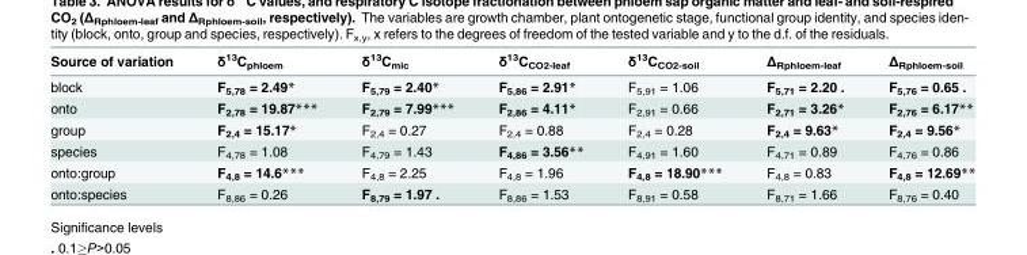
<table><thead><tr><td>Source of variation</td><td>δ<sup>13</sup>C<sub>phloem</sub></td><td>δ<sup>13</sup>C<sub>mic</sub></td><td>δ<sup>13</sup>C<sub>CO2-leaf</sub></td><td>δ<sup>13</sup>C<sub>CO2-soil</sub></td><td>Δ<sub>Rphloem-leaf</sub></td><td>Δ<sub>Rphloem-soil</sub></td></tr></thead><tbody><tr><td>block</td><td>F<sub>5,78</sub> = 2.49*</td><td>F<sub>5,79</sub> = 2.40*</td><td>F<sub>5,86</sub> = 2.91*</td><td>F<sub>5,91</sub> = 1.06</td><td>F<sub>5,71</sub> = 2.20 .</td><td>F<sub>5,76</sub> = 0.65 .</td></tr><tr><td>onto</td><td>F<sub>2,78</sub> = 19.87***</td><td>F<sub>2,79</sub> = 7.99***</td><td>F<sub>2,86</sub> = 4.11*</td><td>F<sub>2,91</sub> = 0.66</td><td>F<sub>2,71</sub> = 3.26*</td><td>F<sub>2,76</sub> = 6.17**</td></tr><tr><td>group</td><td>F<sub>2,4</sub> = 15.17*</td><td>F<sub>2,4</sub> = 0.27</td><td>F<sub>2,4</sub> = 0.88</td><td>F<sub>2,4</sub> = 0.28</td><td>F<sub>2,4</sub> = 9.63*</td><td>F<sub>2,4</sub> = 9.56*</td></tr><tr><td>species</td><td>F<sub>4,78</sub> = 1.08</td><td>F<sub>4,79</sub> = 1.43</td><td>F<sub>4,86</sub> = 3.56**</td><td>F<sub>4,91</sub> = 1.60</td><td>F<sub>4,71</sub> = 0.89</td><td>F<sub>4,76</sub> = 0.86</td></tr><tr><td>onto:group</td><td>F<sub>4,8</sub> = 14.6***</td><td>F<sub>4,8</sub> = 2.25</td><td>F<sub>4,8</sub> = 1.96</td><td>F<sub>4,8</sub> = 18.90***</td><td>F<sub>4,8</sub> = 0.83</td><td>F<sub>4,8</sub> = 12.69**</td></tr><tr><td>onto:species</td><td>F<sub>8,86</sub> = 0.26</td><td>F<sub>8,79</sub> = 1.97 .</td><td>F<sub>8,86</sub> = 1.53</td><td>F<sub>8,91</sub> = 0.58</td><td>F<sub>8,71</sub> = 1.66</td><td>F<sub>8,76</sub> = 0.40</td></tr></tbody></table>